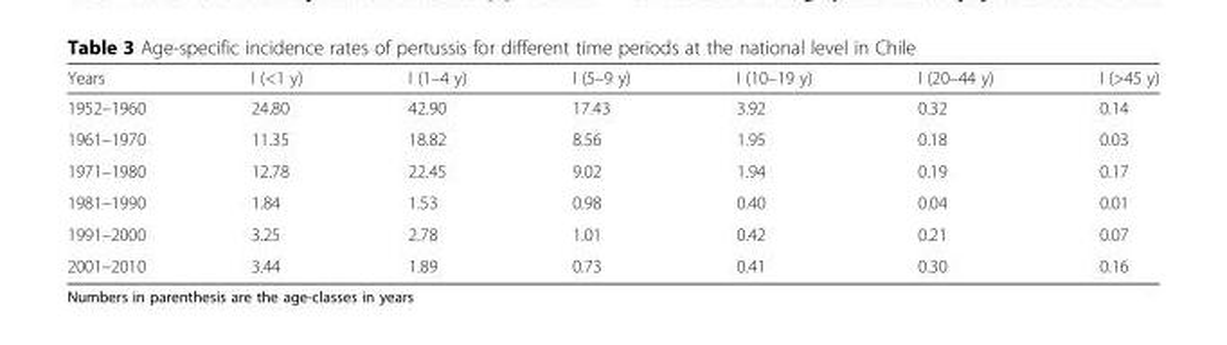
<table><thead><tr><td>Years</td><td>I (&lt;1 y)</td><td>I (1–4 y)</td><td>I (5–9 y)</td><td>I (10–19 y)</td><td>I (20–44 y)</td><td>I (&gt;45 y)</td></tr></thead><tbody><tr><td>1952–1960</td><td>24.80</td><td>42.90</td><td>17.43</td><td>3.92</td><td>0.32</td><td>0.14</td></tr><tr><td>1961–1970</td><td>11.35</td><td>18.82</td><td>8.56</td><td>1.95</td><td>0.18</td><td>0.03</td></tr><tr><td>1971–1980</td><td>12.78</td><td>22.45</td><td>9.02</td><td>1.94</td><td>0.19</td><td>0.17</td></tr><tr><td>1981–1990</td><td>1.84</td><td>1.53</td><td>0.98</td><td>0.40</td><td>0.04</td><td>0.01</td></tr><tr><td>1991–2000</td><td>3.25</td><td>2.78</td><td>1.01</td><td>0.42</td><td>0.21</td><td>0.07</td></tr><tr><td>2001–2010</td><td>3.44</td><td>1.89</td><td>0.73</td><td>0.41</td><td>0.30</td><td>0.16</td></tr></tbody></table>